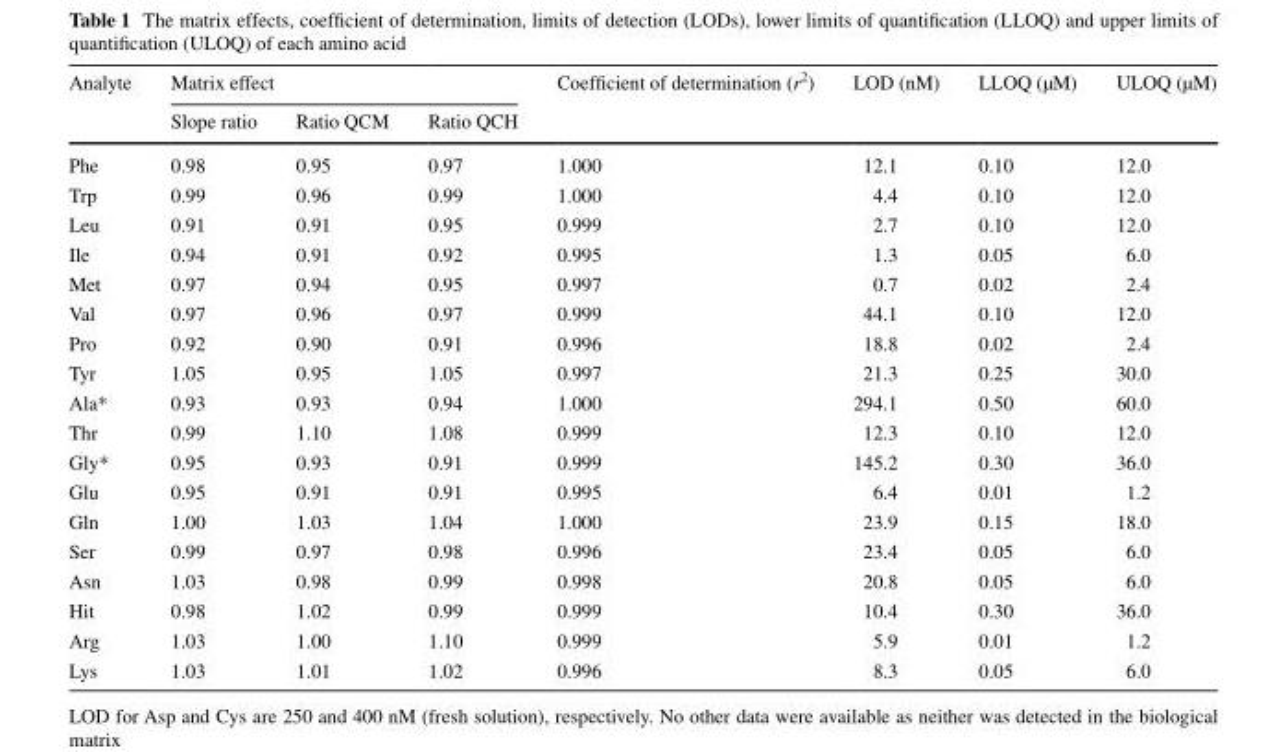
<table><thead><tr><td rowspan="2">Analyte</td><td colspan="3">Matrix effect</td><td rowspan="2">Coefficient of determination (r<sup>2</sup>)</td><td rowspan="2">LOD (nM)</td><td rowspan="2">LLOQ (µM)</td><td rowspan="2">ULOQ (µM)</td></tr><tr><td>Slope ratio</td><td>Ratio QCM</td><td>Ratio QCH</td></tr></thead><tbody><tr><td>Phe</td><td>0.98</td><td>0.95</td><td>0.97</td><td>1.000</td><td>12.1</td><td>0.10</td><td>12.0</td></tr><tr><td>Trp</td><td>0.99</td><td>0.96</td><td>0.99</td><td>1.000</td><td>4.4</td><td>0.10</td><td>12.0</td></tr><tr><td>Leu</td><td>0.91</td><td>0.91</td><td>0.95</td><td>0.999</td><td>2.7</td><td>0.10</td><td>12.0</td></tr><tr><td>Ile</td><td>0.94</td><td>0.91</td><td>0.92</td><td>0.995</td><td>1.3</td><td>0.05</td><td>6.0</td></tr><tr><td>Met</td><td>0.97</td><td>0.94</td><td>0.95</td><td>0.997</td><td>0.7</td><td>0.02</td><td>2.4</td></tr><tr><td>Val</td><td>0.97</td><td>0.96</td><td>0.97</td><td>0.999</td><td>44.1</td><td>0.10</td><td>12.0</td></tr><tr><td>Pro</td><td>0.92</td><td>0.90</td><td>0.91</td><td>0.996</td><td>18.8</td><td>0.02</td><td>2.4</td></tr><tr><td>Tyr</td><td>1.05</td><td>0.95</td><td>1.05</td><td>0.997</td><td>21.3</td><td>0.25</td><td>30.0</td></tr><tr><td>Ala*</td><td>0.93</td><td>0.93</td><td>0.94</td><td>1.000</td><td>294.1</td><td>0.50</td><td>60.0</td></tr><tr><td>Thr</td><td>0.99</td><td>1.10</td><td>1.08</td><td>0.999</td><td>12.3</td><td>0.10</td><td>12.0</td></tr><tr><td>Gly*</td><td>0.95</td><td>0.93</td><td>0.91</td><td>0.999</td><td>145.2</td><td>0.30</td><td>36.0</td></tr><tr><td>Glu</td><td>0.95</td><td>0.91</td><td>0.91</td><td>0.995</td><td>6.4</td><td>0.01</td><td>1.2</td></tr><tr><td>Gln</td><td>1.00</td><td>1.03</td><td>1.04</td><td>1.000</td><td>23.9</td><td>0.15</td><td>18.0</td></tr><tr><td>Ser</td><td>0.99</td><td>0.97</td><td>0.98</td><td>0.996</td><td>23.4</td><td>0.05</td><td>6.0</td></tr><tr><td>Asn</td><td>1.03</td><td>0.98</td><td>0.99</td><td>0.998</td><td>20.8</td><td>0.05</td><td>6.0</td></tr><tr><td>Hit</td><td>0.98</td><td>1.02</td><td>0.99</td><td>0.999</td><td>10.4</td><td>0.30</td><td>36.0</td></tr><tr><td>Arg</td><td>1.03</td><td>1.00</td><td>1.10</td><td>0.999</td><td>5.9</td><td>0.01</td><td>1.2</td></tr><tr><td>Lys</td><td>1.03</td><td>1.01</td><td>1.02</td><td>0.996</td><td>8.3</td><td>0.05</td><td>6.0</td></tr></tbody></table>